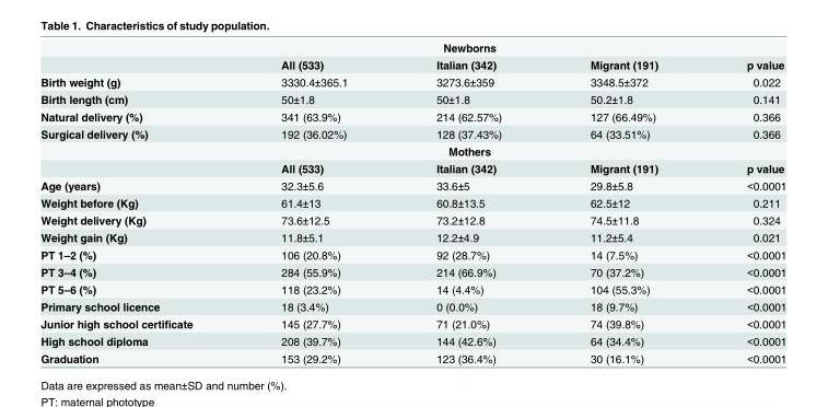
<table><thead><tr><td rowspan="2"></td><td colspan="3">Newborns</td><td rowspan="2">p value</td></tr><tr><td>All (533)</td><td>Italian (342)</td><td>Migrant (191)</td></tr></thead><tbody><tr><td>Birth weight (g)</td><td>3330.4±365.1</td><td>3273.6±359</td><td>3348.5±372</td><td>0.022</td></tr><tr><td>Birth length (cm)</td><td>50±1.8</td><td>50±1.8</td><td>50.2±1.8</td><td>0.141</td></tr><tr><td>Natural delivery (%)</td><td>341 (63.9%)</td><td>214 (62.57%)</td><td>127 (66.49%)</td><td>0.366</td></tr><tr><td rowspan="3">Surgical delivery (%)</td><td>192 (36.02%)</td><td>128 (37.43%)</td><td>64 (33.51%)</td><td>0.366</td></tr><tr><td colspan="3">Mothers</td><td></td></tr><tr><td>All (533)</td><td>Italian (342)</td><td>Migrant (191)</td><td>p value</td></tr><tr><td>Age (years)</td><td>32.3±5.6</td><td>33.6±5</td><td>29.8±5.8</td><td>&lt;0.0001</td></tr><tr><td>Weight before (Kg)</td><td>61.4±13</td><td>60.8±13.5</td><td>62.5±12</td><td>0.211</td></tr><tr><td>Weight delivery (Kg)</td><td>73.6±12.5</td><td>73.2±12.8</td><td>74.5±11.8</td><td>0.324</td></tr><tr><td>Weight gain (Kg)</td><td>11.8±5.1</td><td>12.2±4.9</td><td>11.2±5.4</td><td>0.021</td></tr><tr><td>PT 1–2 (%)</td><td>106 (20.8%)</td><td>92 (28.7%)</td><td>14 (7.5%)</td><td>&lt;0.0001</td></tr><tr><td>PT 3–4 (%)</td><td>284 (55.9%)</td><td>214 (66.9%)</td><td>70 (37.2%)</td><td>&lt;0.0001</td></tr><tr><td>PT 5–6 (%)</td><td>118 (23.2%)</td><td>14 (4.4%)</td><td>104 (55.3%)</td><td>&lt;0.0001</td></tr><tr><td>Primary school licence</td><td>18 (3.4%)</td><td>0 (0.0%)</td><td>18 (9.7%)</td><td>&lt;0.0001</td></tr><tr><td>Junior high school certificate</td><td>145 (27.7%)</td><td>71 (21.0%)</td><td>74 (39.8%)</td><td>&lt;0.0001</td></tr><tr><td>High school diploma</td><td>208 (39.7%)</td><td>144 (42.6%)</td><td>64 (34.4%)</td><td>&lt;0.0001</td></tr><tr><td>Graduation</td><td>153 (29.2%)</td><td>123 (36.4%)</td><td>30 (16.1%)</td><td>&lt;0.0001</td></tr></tbody></table>